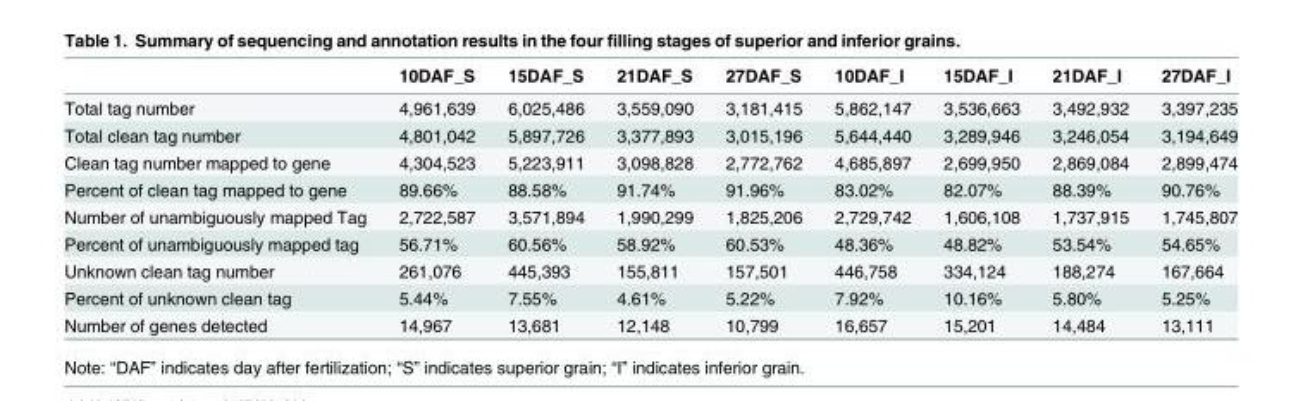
<table><thead><tr><td></td><td>10DAF_S</td><td>15DAF_S</td><td>21DAF_S</td><td>27DAF_S</td><td>10DAF_I</td><td>15DAF_I</td><td>21DAF_I</td><td>27DAF_I</td></tr></thead><tbody><tr><td>Total tag number</td><td>4,961,639</td><td>6,025,486</td><td>3,559,090</td><td>3,181,415</td><td>5,862,147</td><td>3,536,663</td><td>3,492,932</td><td>3,397,235</td></tr><tr><td>Total clean tag number</td><td>4,801,042</td><td>5,897,726</td><td>3,377,893</td><td>3,015,196</td><td>5,644,440</td><td>3,289,946</td><td>3,246,054</td><td>3,194,649</td></tr><tr><td>Clean tag number mapped to gene</td><td>4,304,523</td><td>5,223,911</td><td>3,098,828</td><td>2,772,762</td><td>4,685,897</td><td>2,699,950</td><td>2,869,084</td><td>2,899,474</td></tr><tr><td>Percent of clean tag mapped to gene</td><td>89.66%</td><td>88.58%</td><td>91.74%</td><td>91.96%</td><td>83.02%</td><td>82.07%</td><td>88.39%</td><td>90.76%</td></tr><tr><td>Number of unambiguously mapped Tag</td><td>2,722,587</td><td>3,571,894</td><td>1,990,299</td><td>1,825,206</td><td>2,729,742</td><td>1,606,108</td><td>1,737,915</td><td>1,745,807</td></tr><tr><td>Percent of unambiguously mapped tag</td><td>56.71%</td><td>60.56%</td><td>58.92%</td><td>60.53%</td><td>48.36%</td><td>48.82%</td><td>53.54%</td><td>54.65%</td></tr><tr><td>Unknown clean tag number</td><td>261,076</td><td>445,393</td><td>155,811</td><td>157,501</td><td>446,758</td><td>334,124</td><td>188,274</td><td>167,664</td></tr><tr><td>Percent of unknown clean tag</td><td>5.44%</td><td>7.55%</td><td>4.61%</td><td>5.22%</td><td>7.92%</td><td>10.16%</td><td>5.80%</td><td>5.25%</td></tr><tr><td>Number of genes detected</td><td>14,967</td><td>13,681</td><td>12,148</td><td>10,799</td><td>16,657</td><td>15,201</td><td>14,484</td><td>13,111</td></tr></tbody></table>